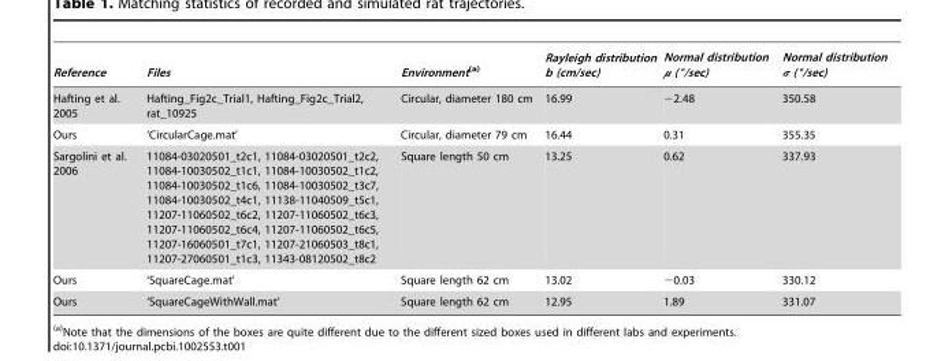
<table><thead><tr><td>Reference</td><td>Files</td><td>Environment(a)</td><td>Rayleigh distribution b (cm/sec)</td><td>Normal distribution μ (°/sec)</td><td>Normal distribution σ (°/sec)</td></tr></thead><tbody><tr><td>Hafting et al. 2005</td><td>Hafting_Fig2c_Trial1, Hafting_Fig2c_Trial2, rat_10925</td><td>Circular, diameter 180 cm</td><td>16.99</td><td>−2.48</td><td>350.58</td></tr><tr><td>Ours</td><td>‘CircularCage.mat’</td><td>Circular, diameter 79 cm</td><td>16.44</td><td>0.31</td><td>355.35</td></tr><tr><td>Sargolini et al. 2006</td><td>11084-03020501_t2c1, 11084-03020501_t2c2, 11084-10030502_t1c1, 11084-10030502_t1c2, 11084-10030502_t1c6, 11084-10030502_t3c7, 11084-10030502_t4c1, 11138-11040509_t5c1, 11207-11060502_t6c2, 11207-11060502_t6c3, 11207-11060502_t6c4, 11207-11060502_t6c5, 11207-16060501_t7c1, 11207-21060503_t8c1, 11207-27060501_t1c3, 11343-08120502_t8c2</td><td>Square length 50 cm</td><td>13.25</td><td>0.62</td><td>337.93</td></tr><tr><td>Ours</td><td>‘SquareCage.mat’</td><td>Square length 62 cm</td><td>13.02</td><td>−0.03</td><td>330.12</td></tr><tr><td>Ours</td><td>‘SquareCageWithWall.mat’</td><td>Square length 62 cm</td><td>12.95</td><td>1.89</td><td>331.07</td></tr></tbody></table>